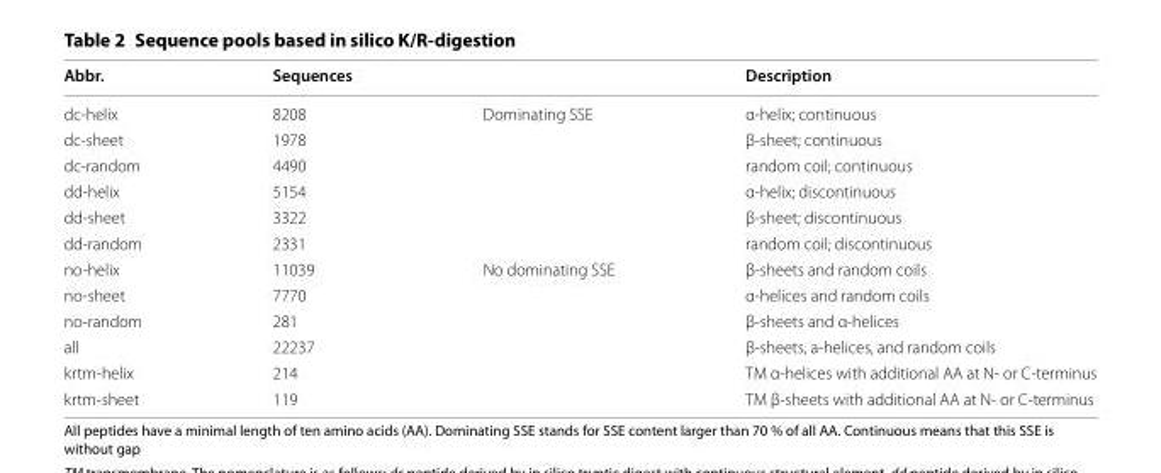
<table><thead><tr><td>Abbr.</td><td>Sequences</td><td></td><td>Description</td></tr></thead><tbody><tr><td>dc-helix</td><td>8208</td><td rowspan="6">Dominating SSE</td><td>α-helix; continuous</td></tr><tr><td>dc-sheet</td><td>1978</td><td>β-sheet; continuous</td></tr><tr><td>dc-random</td><td>4490</td><td>random coil; continuous</td></tr><tr><td>dd-helix</td><td>5154</td><td>α-helix; discontinuous</td></tr><tr><td>dd-sheet</td><td>3322</td><td>β-sheet; discontinuous</td></tr><tr><td>dd-random</td><td>2331</td><td>random coil; discontinuous</td></tr><tr><td>no-helix</td><td>11039</td><td rowspan="6">No dominating SSE</td><td>β-sheets and random coils</td></tr><tr><td>no-sheet</td><td>7770</td><td>α-helices and random coils</td></tr><tr><td>no-random</td><td>281</td><td>β-sheets and α-helices</td></tr><tr><td>all</td><td>22237</td><td>β-sheets, a-helices, and random coils</td></tr><tr><td>krtm-helix</td><td>214</td><td>TM α-helices with additional AA at N- or C-terminus</td></tr><tr><td>krtm-sheet</td><td>119</td><td>TM β-sheets with additional AA at N- or C-terminus</td></tr></tbody></table>